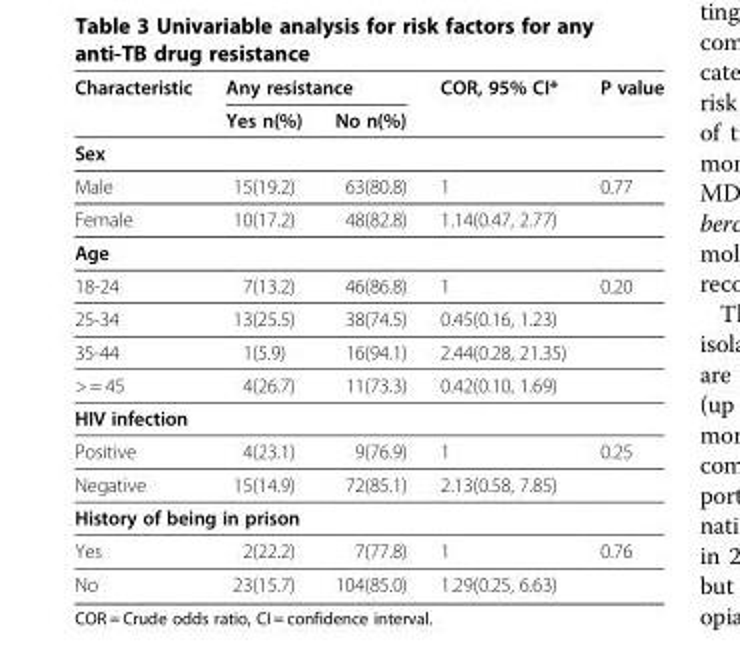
<table><thead><tr><td rowspan="2">Characteristic</td><td colspan="2">Any resistance</td><td rowspan="2">COR, 95% CI*</td><td rowspan="2">P value</td></tr><tr><td>Yes n(%)</td><td>No n(%)</td></tr></thead><tbody><tr><td colspan="5">Sex</td></tr><tr><td>Male</td><td>15(19.2)</td><td>63(80.8)</td><td>1</td><td>0.77</td></tr><tr><td>Female</td><td>10(17.2)</td><td>48(82.8)</td><td>1.14(0.47, 2.77)</td><td></td></tr><tr><td colspan="5">Age</td></tr><tr><td>18-24</td><td>7(13.2)</td><td>46(86.8)</td><td>1</td><td>0.20</td></tr><tr><td>25-34</td><td>13(25.5)</td><td>38(74.5)</td><td>0.45(0.16, 1.23)</td><td></td></tr><tr><td>35-44</td><td>1(5.9)</td><td>16(94.1)</td><td>2.44(0.28, 21.35)</td><td></td></tr><tr><td>&gt; = 45</td><td>4(26.7)</td><td>11(73.3)</td><td>0.42(0.10, 1.69)</td><td></td></tr><tr><td colspan="5">HIV infection</td></tr><tr><td>Positive</td><td>4(23.1)</td><td>9(76.9)</td><td>1</td><td>0.25</td></tr><tr><td>Negative</td><td>15(14.9)</td><td>72(85.1)</td><td>2.13(0.58, 7.85)</td><td></td></tr><tr><td colspan="5">History of being in prison</td></tr><tr><td>Yes</td><td>2(22.2)</td><td>7(77.8)</td><td>1</td><td>0.76</td></tr><tr><td>No</td><td>23(15.7)</td><td>104(85.0)</td><td>1.29(0.25, 6.63)</td><td></td></tr></tbody></table>